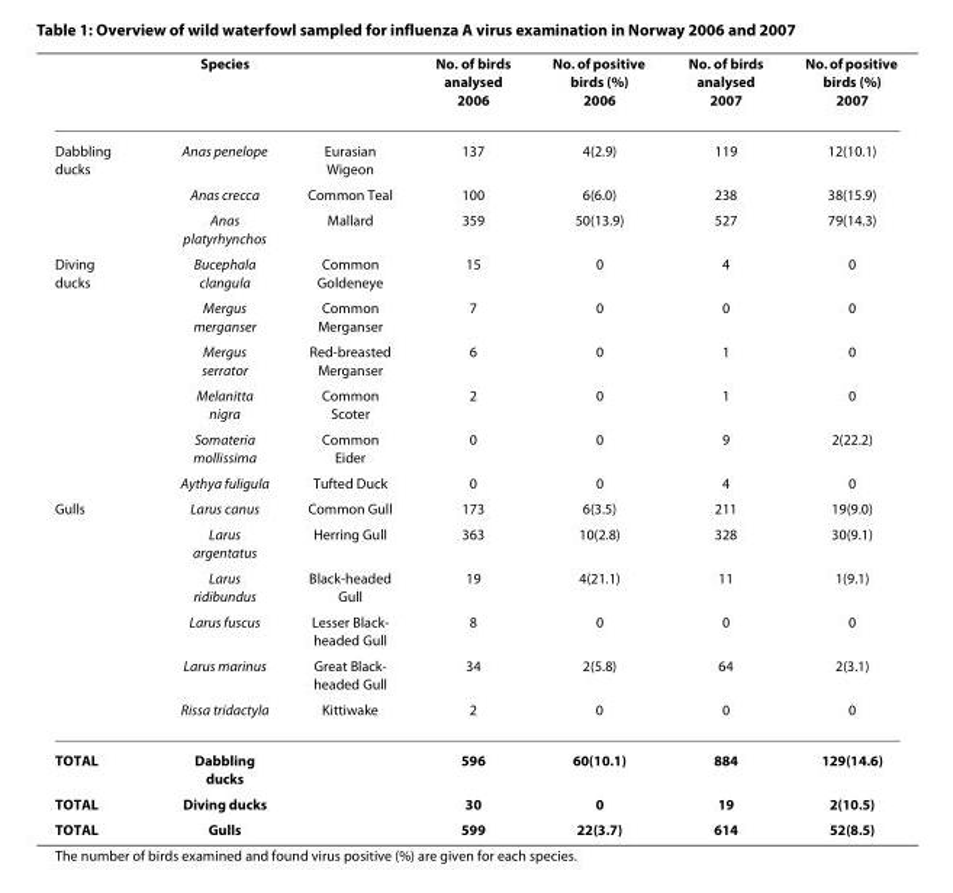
<table><thead><tr><td></td><td>Species</td><td></td><td>No. of birds analysed 2006</td><td>No. of positive birds (%) 2006</td><td>No. of birds analysed 2007</td><td>No. of positive birds (%) 2007</td></tr></thead><tbody><tr><td rowspan="3">Dabbling ducks</td><td>Anas penelope</td><td>Eurasian Wigeon</td><td>137</td><td>4(2.9)</td><td>119</td><td>12(10.1)</td></tr><tr><td>Anas crecca</td><td>Common Teal</td><td>100</td><td>6(6.0)</td><td>238</td><td>38(15.9)</td></tr><tr><td>Anas platyrhynchos</td><td>Mallard</td><td>359</td><td>50(13.9)</td><td>527</td><td>79(14.3)</td></tr><tr><td rowspan="6">Diving ducks</td><td>Bucephala clangula</td><td>Common Goldeneye</td><td>15</td><td>0</td><td>4</td><td>0</td></tr><tr><td>Mergus merganser</td><td>Common Merganser</td><td>7</td><td>0</td><td>0</td><td>0</td></tr><tr><td>Mergus serrator</td><td>Red-breasted Merganser</td><td>6</td><td>0</td><td>1</td><td>0</td></tr><tr><td>Melanitta nigra</td><td>Common Scoter</td><td>2</td><td>0</td><td>1</td><td>0</td></tr><tr><td>Somateria mollissima</td><td>Common Eider</td><td>0</td><td>0</td><td>9</td><td>2(22.2)</td></tr><tr><td>Aythya fuligula</td><td>Tufted Duck</td><td>0</td><td>0</td><td>4</td><td>0</td></tr><tr><td rowspan="6">Gulls</td><td>Larus canus</td><td>Common Gull</td><td>173</td><td>6(3.5)</td><td>211</td><td>19(9.0)</td></tr><tr><td>Larus argentatus</td><td>Herring Gull</td><td>363</td><td>10(2.8)</td><td>328</td><td>30(9.1)</td></tr><tr><td>Larus ridibundus</td><td>Black-headed Gull</td><td>19</td><td>4(21.1)</td><td>11</td><td>1(9.1)</td></tr><tr><td>Larus fuscus</td><td>Lesser Black- headed Gull</td><td>8</td><td>0</td><td>0</td><td>0</td></tr><tr><td>Larus marinus</td><td>Great Black- headed Gull</td><td>34</td><td>2(5.8)</td><td>64</td><td>2(3.1)</td></tr><tr><td>Rissa tridactyla</td><td>Kittiwake</td><td>2</td><td>0</td><td>0</td><td>0</td></tr><tr><td>TOTAL</td><td>Dabbling ducks</td><td></td><td>596</td><td>60(10.1)</td><td>884</td><td>129(14.6)</td></tr><tr><td>TOTAL</td><td>Diving ducks</td><td></td><td>30</td><td>0</td><td>19</td><td>2(10.5)</td></tr><tr><td>TOTAL</td><td>Gulls</td><td></td><td>599</td><td>22(3.7)</td><td>614</td><td>52(8.5)</td></tr></tbody></table>